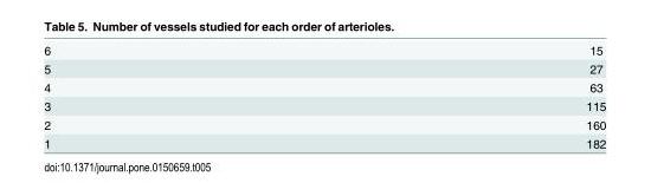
<table><tbody><tr><td>6</td><td>15</td></tr><tr><td>5</td><td>27</td></tr><tr><td>4</td><td>63</td></tr><tr><td>3</td><td>115</td></tr><tr><td>2</td><td>160</td></tr><tr><td>1</td><td>182</td></tr></tbody></table>